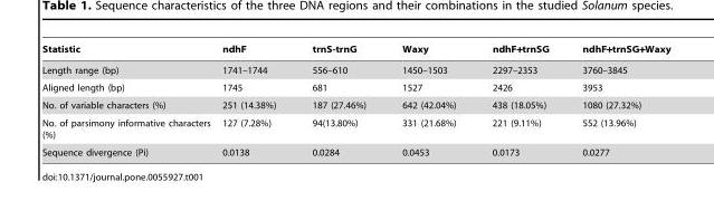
<table><thead><tr><td>Statistic</td><td>ndhF</td><td>trnS-trnG</td><td>Waxy</td><td>ndhF+trnSG</td><td>ndhF+trnSG+Waxy</td></tr></thead><tbody><tr><td>Length range (bp)</td><td>1741–1744</td><td>556–610</td><td>1450–1503</td><td>2297–2353</td><td>3760–3845</td></tr><tr><td>Aligned length (bp)</td><td>1745</td><td>681</td><td>1527</td><td>2426</td><td>3953</td></tr><tr><td>No. of variable characters (%)</td><td>251 (14.38%)</td><td>187 (27.46%)</td><td>642 (42.04%)</td><td>438 (18.05%)</td><td>1080 (27.32%)</td></tr><tr><td>No. of parsimony informative characters (%)</td><td>127 (7.28%)</td><td>94(13.80%)</td><td>331 (21.68%)</td><td>221 (9.11%)</td><td>552 (13.96%)</td></tr><tr><td>Sequence divergence (Pi)</td><td>0.0138</td><td>0.0284</td><td>0.0453</td><td>0.0173</td><td>0.0277</td></tr></tbody></table>